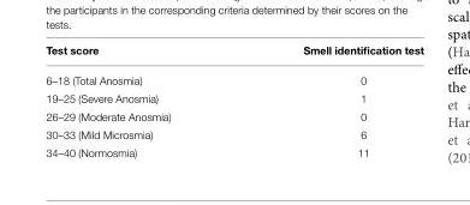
<table><thead><tr><td>Test score</td><td>Smell identification test</td></tr></thead><tbody><tr><td>6–18 (Total Anosmia)</td><td>0</td></tr><tr><td>19–25 (Severe Anosmia)</td><td>1</td></tr><tr><td>26–29 (Moderate Anosmia)</td><td>0</td></tr><tr><td>30–33 (Mild Microsmia)</td><td>6</td></tr><tr><td>34–40 (Normosmia)</td><td>11</td></tr></tbody></table>